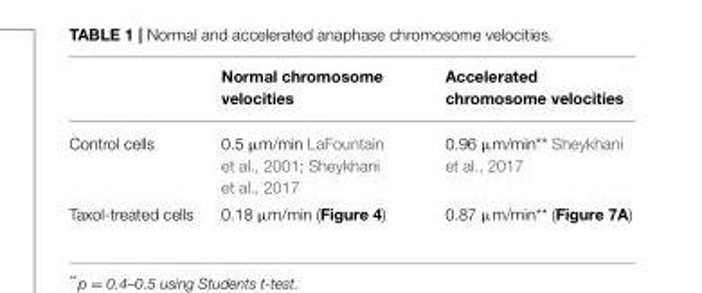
<table><thead><tr><td></td><td>Normal chromosome velocities</td><td>Accelerated chromosome velocities</td></tr></thead><tbody><tr><td>Control cells</td><td>0.5 µm/min LaFountain et al., 2001; Sheykhani et al., 2017</td><td>0.96 µm/min** Sheykhani et al., 2017</td></tr><tr><td>Taxol-treated cells</td><td>0.18 µm/min (Figure 4)</td><td>0.87 µm/min** (Figure 7A)</td></tr></tbody></table>